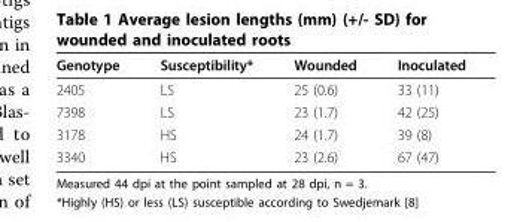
<table><thead><tr><td>Genotype</td><td>Susceptibility*</td><td>Wounded</td><td>Inoculated</td></tr></thead><tbody><tr><td>2405</td><td>LS</td><td>25 (0.6)</td><td>33 (11)</td></tr><tr><td>7398</td><td>LS</td><td>23 (1.7)</td><td>42 (25)</td></tr><tr><td>3178</td><td>HS</td><td>24 (1.7)</td><td>39 (8)</td></tr><tr><td>3340</td><td>HS</td><td>23 (2.6)</td><td>67 (47)</td></tr></tbody></table>